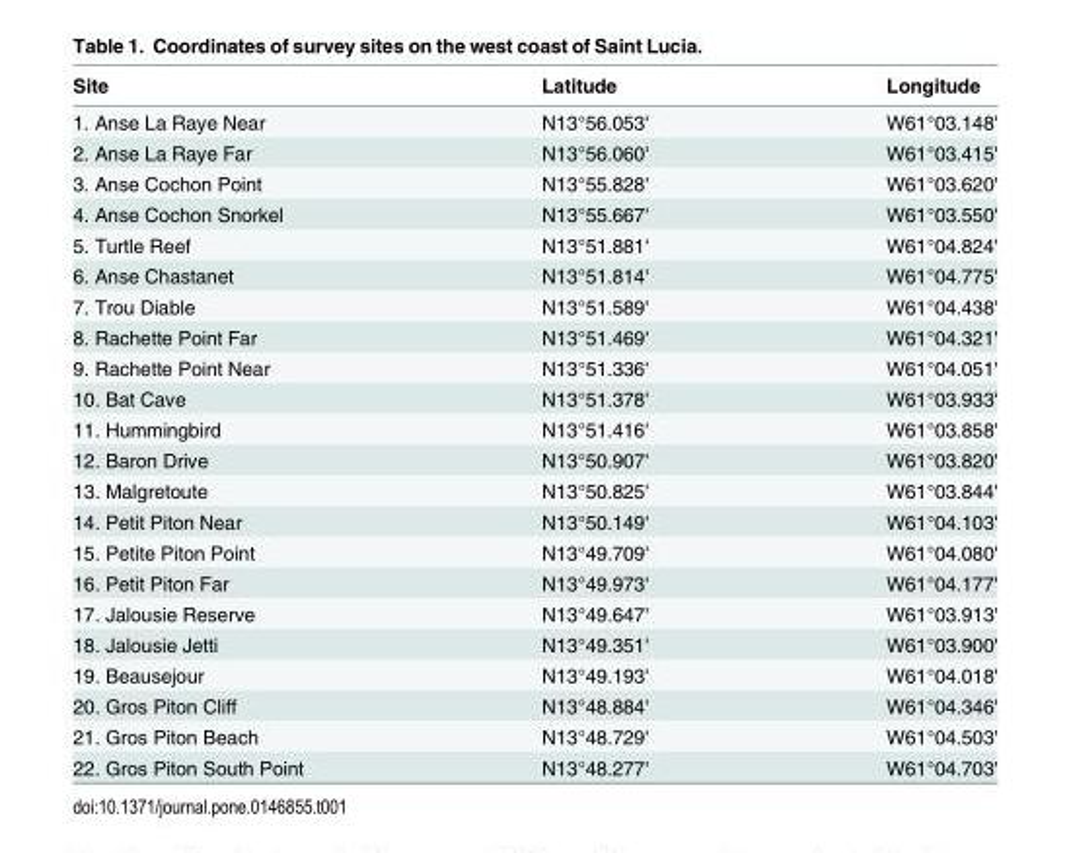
<table><thead><tr><td>Site</td><td>Latitude</td><td>Longitude</td></tr></thead><tbody><tr><td>1. Anse La Raye Near</td><td>N13°56.053&#x27;</td><td>W61°03.148&#x27;</td></tr><tr><td>2. Anse La Raye Far</td><td>N13°56.060&#x27;</td><td>W61°03.415&#x27;</td></tr><tr><td>3. Anse Cochon Point</td><td>N13°55.828&#x27;</td><td>W61°03.620&#x27;</td></tr><tr><td>4. Anse Cochon Snorkel</td><td>N13°55.667&#x27;</td><td>W61°03.550&#x27;</td></tr><tr><td>5. Turtle Reef</td><td>N13°51.881&#x27;</td><td>W61°04.824&#x27;</td></tr><tr><td>6. Anse Chastanet</td><td>N13°51.814&#x27;</td><td>W61°04.775&#x27;</td></tr><tr><td>7. Trou Diable</td><td>N13°51.589&#x27;</td><td>W61°04.438&#x27;</td></tr><tr><td>8. Rachette Point Far</td><td>N13°51.469&#x27;</td><td>W61°04.321&#x27;</td></tr><tr><td>9. Rachette Point Near</td><td>N13°51.336&#x27;</td><td>W61°04.051&#x27;</td></tr><tr><td>10. Bat Cave</td><td>N13°51.378&#x27;</td><td>W61°03.933&#x27;</td></tr><tr><td>11. Hummingbird</td><td>N13°51.416&#x27;</td><td>W61°03.858&#x27;</td></tr><tr><td>12. Baron Drive</td><td>N13°50.907&#x27;</td><td>W61°03.820&#x27;</td></tr><tr><td>13. Malgretoute</td><td>N13°50.825&#x27;</td><td>W61°03.844&#x27;</td></tr><tr><td>14. Petit Piton Near</td><td>N13°50.149&#x27;</td><td>W61°04.103&#x27;</td></tr><tr><td>15. Petite Piton Point</td><td>N13°49.709&#x27;</td><td>W61°04.080&#x27;</td></tr><tr><td>16. Petit Piton Far</td><td>N13°49.973&#x27;</td><td>W61°04.177&#x27;</td></tr><tr><td>17. Jalousie Reserve</td><td>N13°49.647&#x27;</td><td>W61°03.913&#x27;</td></tr><tr><td>18. Jalousie Jetti</td><td>N13°49.351&#x27;</td><td>W61°03.900&#x27;</td></tr><tr><td>19. Beausejour</td><td>N13°49.193&#x27;</td><td>W61°04.018&#x27;</td></tr><tr><td>20. Gros Piton Cliff</td><td>N13°48.884&#x27;</td><td>W61°04.346&#x27;</td></tr><tr><td>21. Gros Piton Beach</td><td>N13°48.729&#x27;</td><td>W61°04.503&#x27;</td></tr><tr><td>22. Gros Piton South Point</td><td>N13°48.277&#x27;</td><td>W61°04.703&#x27;</td></tr></tbody></table>